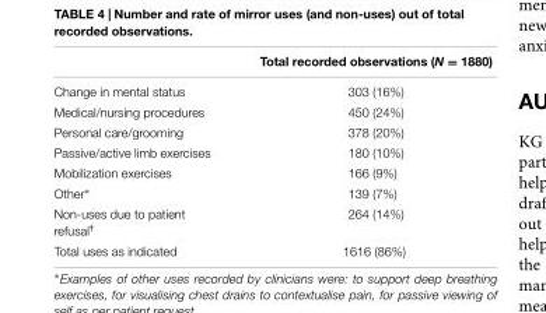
<table><thead><tr><td></td><td>Total recorded observations (N = 1880)</td></tr></thead><tbody><tr><td>Change in mental status</td><td>303 (16%)</td></tr><tr><td>Medical/nursing procedures</td><td>450 (24%)</td></tr><tr><td>Personal care/grooming</td><td>378 (20%)</td></tr><tr><td>Passive/active limb exercises</td><td>180 (10%)</td></tr><tr><td>Mobilization exercises</td><td>166 (9%)</td></tr><tr><td>Other∗</td><td>139 (7%)</td></tr><tr><td>Non-uses due to patient refusal<sup>†</sup></td><td>264 (14%)</td></tr><tr><td>Total uses as indicated</td><td>1616 (86%)</td></tr></tbody></table>